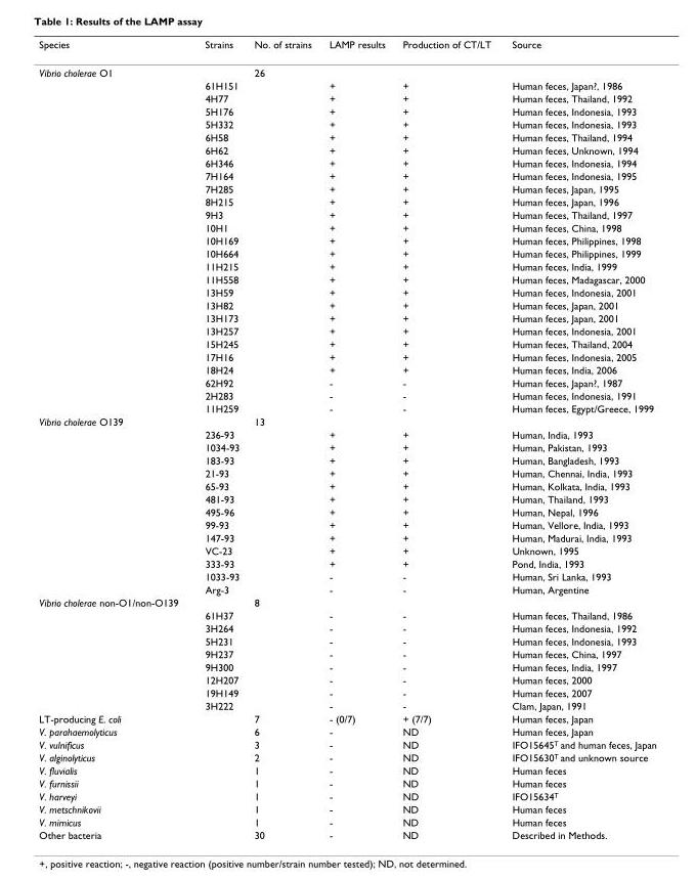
<table><thead><tr><td>Species</td><td>Strains</td><td>No. of strains</td><td>LAMP results</td><td>Production of CT/LT</td><td>Source</td></tr></thead><tbody><tr><td rowspan="27">Vibrio cholerae O1</td><td></td><td>26</td><td></td><td></td><td></td></tr><tr><td>61H151</td><td></td><td>+</td><td>+</td><td>Human feces, Japan?, 1986</td></tr><tr><td>4H77</td><td></td><td>+</td><td>+</td><td>Human feces, Thailand, 1992</td></tr><tr><td>5H176</td><td></td><td>+</td><td>+</td><td>Human feces, Indonesia, 1993</td></tr><tr><td>5H332</td><td></td><td>+</td><td>+</td><td>Human feces, Indonesia, 1993</td></tr><tr><td>6H58</td><td></td><td>+</td><td>+</td><td>Human feces, Thailand, 1994</td></tr><tr><td>6H62</td><td></td><td>+</td><td>+</td><td>Human feces, Unknown, 1994</td></tr><tr><td>6H346</td><td></td><td>+</td><td>+</td><td>Human feces, Indonesia, 1994</td></tr><tr><td>7H164</td><td></td><td>+</td><td>+</td><td>Human feces, Indonesia, 1995</td></tr><tr><td>7H285</td><td></td><td>+</td><td>+</td><td>Human feces, Japan, 1995</td></tr><tr><td>8H215</td><td></td><td>+</td><td>+</td><td>Human feces, Japan, 1996</td></tr><tr><td>9H3</td><td></td><td>+</td><td>+</td><td>Human feces, Thailand, 1997</td></tr><tr><td>10H1</td><td></td><td>+</td><td>+</td><td>Human feces, China, 1998</td></tr><tr><td>10H169</td><td></td><td>+</td><td>+</td><td>Human feces, Philippines, 1998</td></tr><tr><td>10H664</td><td></td><td>+</td><td>+</td><td>Human feces, Philippines, 1999</td></tr><tr><td>11H215</td><td></td><td>+</td><td>+</td><td>Human feces, India, 1999</td></tr><tr><td>11H558</td><td></td><td>+</td><td>+</td><td>Human feces, Madagascar, 2000</td></tr><tr><td>13H59</td><td></td><td>+</td><td>+</td><td>Human feces, Indonesia, 2001</td></tr><tr><td>13H82</td><td></td><td>+</td><td>+</td><td>Human feces, Japan, 2001</td></tr><tr><td>13H173</td><td></td><td>+</td><td>+</td><td>Human feces, Japan, 2001</td></tr><tr><td>13H257</td><td></td><td>+</td><td>+</td><td>Human feces, Indonesia, 2001</td></tr><tr><td>15H245</td><td></td><td>+</td><td>+</td><td>Human feces, Thailand, 2004</td></tr><tr><td>17H16</td><td></td><td>+</td><td>+</td><td>Human feces, Indonesia, 2005</td></tr><tr><td>18H24</td><td></td><td>+</td><td>+</td><td>Human feces, India, 2006</td></tr><tr><td>62H92</td><td></td><td>-</td><td>-</td><td>Human feces, Japan?, 1987</td></tr><tr><td>2H283</td><td></td><td>-</td><td>-</td><td>Human feces, Indonesia, 1991</td></tr><tr><td>11H259</td><td></td><td>-</td><td>-</td><td>Human feces, Egypt/Greece, 1999</td></tr><tr><td rowspan="14">Vibrio cholerae O139</td><td></td><td>13</td><td></td><td></td><td></td></tr><tr><td>236-93</td><td></td><td>+</td><td>+</td><td>Human, India, 1993</td></tr><tr><td>1034-93</td><td></td><td>+</td><td>+</td><td>Human, Pakistan, 1993</td></tr><tr><td>183-93</td><td></td><td>+</td><td>+</td><td>Human, Bangladesh, 1993</td></tr><tr><td>21-93</td><td></td><td>+</td><td>+</td><td>Human, Chennai, India, 1993</td></tr><tr><td>65-93</td><td></td><td>+</td><td>+</td><td>Human, Kolkata, India, 1993</td></tr><tr><td>481-93</td><td></td><td>+</td><td>+</td><td>Human, Thailand, 1993</td></tr><tr><td>495-96</td><td></td><td>+</td><td>+</td><td>Human, Nepal, 1996</td></tr><tr><td>99-93</td><td></td><td>+</td><td>+</td><td>Human, Vellore, India, 1993</td></tr><tr><td>147-93</td><td></td><td>+</td><td>+</td><td>Human, Madurai, India, 1993</td></tr><tr><td>VC-23</td><td></td><td>+</td><td>+</td><td>Unknown, 1995</td></tr><tr><td>333-93</td><td></td><td>+</td><td>+</td><td>Pond, India, 1993</td></tr><tr><td>1033-93</td><td></td><td>-</td><td>-</td><td>Human, Sri Lanka, 1993</td></tr><tr><td>Arg-3</td><td></td><td>-</td><td>-</td><td>Human, Argentine</td></tr><tr><td rowspan="9">Vibrio cholerae non-O1/non-O139</td><td></td><td>8</td><td></td><td></td><td></td></tr><tr><td>61H37</td><td></td><td>-</td><td>-</td><td>Human feces, Thailand, 1986</td></tr><tr><td>3H264</td><td></td><td>-</td><td>-</td><td>Human feces, Indonesia, 1992</td></tr><tr><td>5H231</td><td></td><td>-</td><td>-</td><td>Human feces, Indonesia, 1993</td></tr><tr><td>9H237</td><td></td><td>-</td><td>-</td><td>Human feces, China, 1997</td></tr><tr><td>9H300</td><td></td><td>-</td><td>-</td><td>Human feces, India, 1997</td></tr><tr><td>12H207</td><td></td><td>-</td><td>-</td><td>Human feces, 2000</td></tr><tr><td>19H149</td><td></td><td>-</td><td>-</td><td>Human feces, 2007</td></tr><tr><td>3H222</td><td></td><td>-</td><td>-</td><td>Clam, Japan, 1991</td></tr><tr><td>LT-producing E. coli</td><td></td><td>7</td><td>- (0/7)</td><td>+ (7/7)</td><td>Human feces, Japan</td></tr><tr><td>V. parahaemolyticus</td><td></td><td>6</td><td>-</td><td>ND</td><td>Human feces, Japan</td></tr><tr><td>V. vulnificus</td><td></td><td>3</td><td>-</td><td>ND</td><td>IFO15645<sup>T</sup> and human feces, Japan</td></tr><tr><td>V. alginolyticus</td><td></td><td>2</td><td>-</td><td>ND</td><td>IFO15630<sup>T</sup> and unknown source</td></tr><tr><td>V. fluvialis</td><td></td><td>1</td><td>-</td><td>ND</td><td>Human feces</td></tr><tr><td>V. furnissii</td><td></td><td>1</td><td>-</td><td>ND</td><td>Human feces</td></tr><tr><td>V. harveyi</td><td></td><td>1</td><td>-</td><td>ND</td><td>IFO15634<sup>T</sup></td></tr><tr><td>V. metschnikovii</td><td></td><td>1</td><td>-</td><td>ND</td><td>Human feces</td></tr><tr><td>V. mimicus</td><td></td><td>1</td><td>-</td><td>ND</td><td>Human feces</td></tr><tr><td>Other bacteria</td><td></td><td>30</td><td>-</td><td>ND</td><td>Described in Methods.</td></tr></tbody></table>